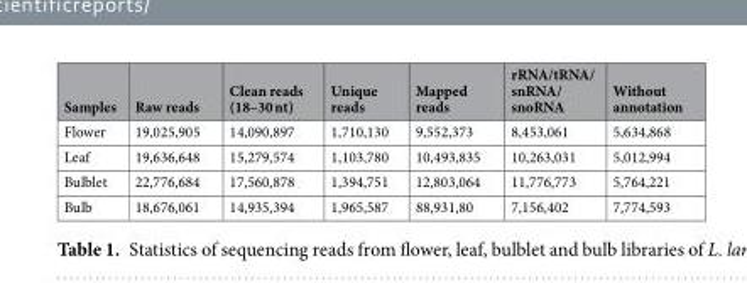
<table><thead><tr><td>Samples</td><td>Raw reads</td><td>Clean reads (18–30 nt)</td><td>Unique reads</td><td>Mapped reads</td><td>rRNA/tRNA/ snRNA/ snoRNA</td><td>Without annotation</td></tr></thead><tbody><tr><td>Flower</td><td>19,025,905</td><td>14,090,897</td><td>1,710,130</td><td>9,552,373</td><td>8,453,061</td><td>5,634,868</td></tr><tr><td>Leaf</td><td>19,636,648</td><td>15,279,574</td><td>1,103,780</td><td>10,493,835</td><td>10,263,031</td><td>5,012,994</td></tr><tr><td>Bulblet</td><td>22,776,684</td><td>17,560,878</td><td>1,394,751</td><td>12,803,064</td><td>11,776,773</td><td>5,764,221</td></tr><tr><td>Bulb</td><td>18,676,061</td><td>14,935,394</td><td>1,965,587</td><td>88,931,80</td><td>7,156,402</td><td>7,774,593</td></tr></tbody></table>